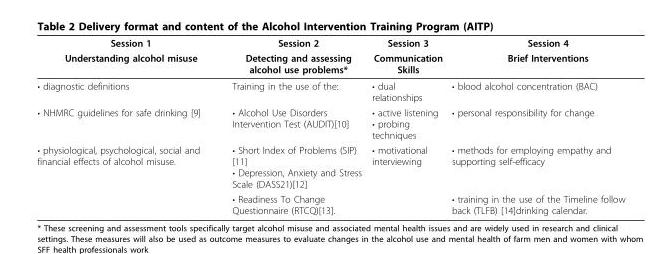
<table><thead><tr><td rowspan="2">Session 1 Understanding alcohol misuse</td><td rowspan="2">Session 2 Detecting and assessing alcohol use problems*</td><td rowspan="2">Session 3 Communication Skills</td><td rowspan="2">Session 4 Brief Interventions</td></tr><tr></tr></thead><tbody><tr><td>• diagnostic definitions</td><td>Training in the use of the:</td><td>• dual relationships</td><td>• blood alcohol concentration (BAC)</td></tr><tr><td>• NHMRC guidelines for safe drinking [9]</td><td>• Alcohol Use Disorders Intervention Test (AUDIT)[10]</td><td>• active listening • probing techniques</td><td>• personal responsibility for change</td></tr><tr><td rowspan="2">• physiological, psychological, social and financial effects of alcohol misuse.</td><td>• Short Index of Problems (SIP) [11] • Depression, Anxiety and Stress Scale (DASS21)[12]</td><td>• motivational interviewing</td><td>• methods for employing empathy and supporting self-efficacy</td></tr><tr><td>• Readiness To Change Questionnaire (RTCQ)[13].</td><td></td><td>• training in the use of the Timeline follow back (TLFB) [14]drinking calendar.</td></tr></tbody></table>